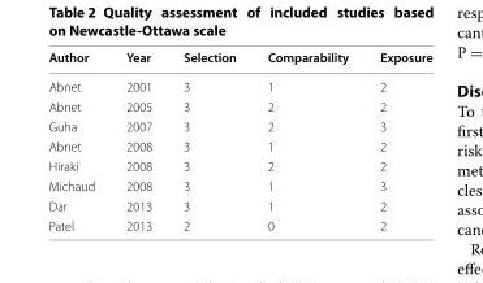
<table><thead><tr><td>Author</td><td>Year</td><td>Selection</td><td>Comparability</td><td>Exposure</td></tr></thead><tbody><tr><td>Abnet</td><td>2001</td><td>3</td><td>1</td><td>2</td></tr><tr><td>Abnet</td><td>2005</td><td>3</td><td>2</td><td>2</td></tr><tr><td>Guha</td><td>2007</td><td>3</td><td>2</td><td>3</td></tr><tr><td>Abnet</td><td>2008</td><td>3</td><td>1</td><td>2</td></tr><tr><td>Hiraki</td><td>2008</td><td>3</td><td>2</td><td>2</td></tr><tr><td>Michaud</td><td>2008</td><td>3</td><td>1</td><td>3</td></tr><tr><td>Dar</td><td>2013</td><td>3</td><td>1</td><td>2</td></tr><tr><td>Patel</td><td>2013</td><td>2</td><td>0</td><td>2</td></tr></tbody></table>